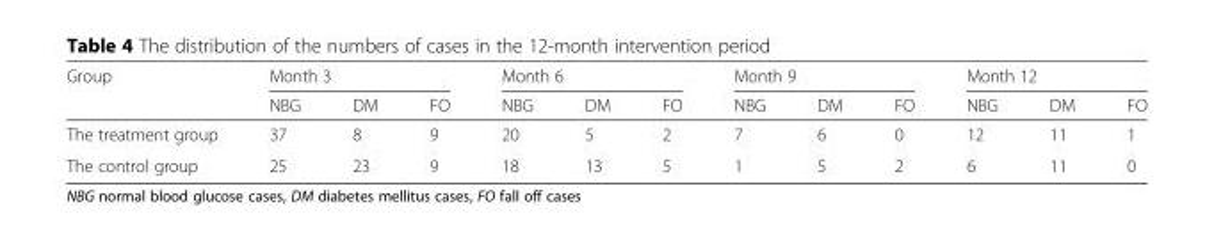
<table><thead><tr><td rowspan="2">Group</td><td colspan="3">Month 3</td><td colspan="3">Month 6</td><td colspan="3">Month 9</td><td colspan="3">Month 12</td></tr><tr><td>NBG</td><td>DM</td><td>FO</td><td>NBG</td><td>DM</td><td>FO</td><td>NBG</td><td>DM</td><td>FO</td><td>NBG</td><td>DM</td><td>FO</td></tr></thead><tbody><tr><td>The treatment group</td><td>37</td><td>8</td><td>9</td><td>20</td><td>5</td><td>2</td><td>7</td><td>6</td><td>0</td><td>12</td><td>11</td><td>1</td></tr><tr><td>The control group</td><td>25</td><td>23</td><td>9</td><td>18</td><td>13</td><td>5</td><td>1</td><td>5</td><td>2</td><td>6</td><td>11</td><td>0</td></tr></tbody></table>